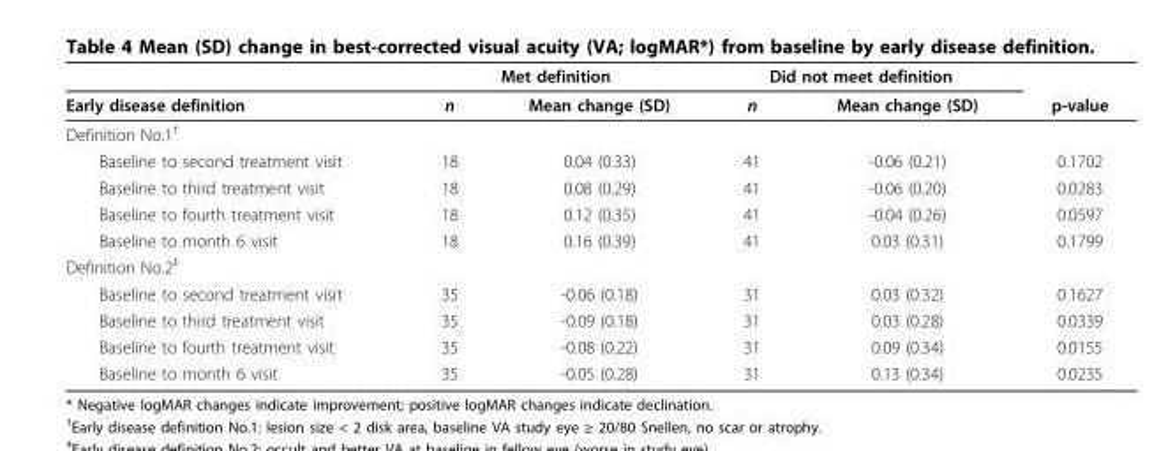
<table><thead><tr><td rowspan="2">Early disease definition</td><td colspan="2">Met definition</td><td colspan="2">Did not meet definition</td><td rowspan="2">p-value</td></tr><tr><td>n</td><td>Mean change (SD)</td><td>n</td><td>Mean change (SD)</td></tr></thead><tbody><tr><td colspan="6">Definition No.1<sup>†</sup></td></tr><tr><td>Baseline to second treatment visit</td><td>18</td><td>0.04 (0.33)</td><td>41</td><td>-0.06 (0.21)</td><td>0.1702</td></tr><tr><td>Baseline to third treatment visit</td><td>18</td><td>0.08 (0.29)</td><td>41</td><td>-0.06 (0.20)</td><td>0.0283</td></tr><tr><td>Baseline to fourth treatment visit</td><td>18</td><td>0.12 (0.35)</td><td>41</td><td>-0.04 (0.26)</td><td>0.0597</td></tr><tr><td>Baseline to month 6 visit</td><td>18</td><td>0.16 (0.39)</td><td>41</td><td>0.03 (0.31)</td><td>0.1799</td></tr><tr><td colspan="6">Definition No.2<sup>‡</sup></td></tr><tr><td>Baseline to second treatment visit</td><td>35</td><td>-0.06 (0.18)</td><td>31</td><td>0.03 (0.32)</td><td>0.1627</td></tr><tr><td>Baseline to third treatment visit</td><td>35</td><td>-0.09 (0.18)</td><td>31</td><td>0.03 (0.28)</td><td>0.0339</td></tr><tr><td>Baseline to fourth treatment visit</td><td>35</td><td>-0.08 (0.22)</td><td>31</td><td>0.09 (0.34)</td><td>0.0155</td></tr><tr><td>Baseline to month 6 visit</td><td>35</td><td>-0.05 (0.28)</td><td>31</td><td>0.13 (0.34)</td><td>0.0235</td></tr></tbody></table>